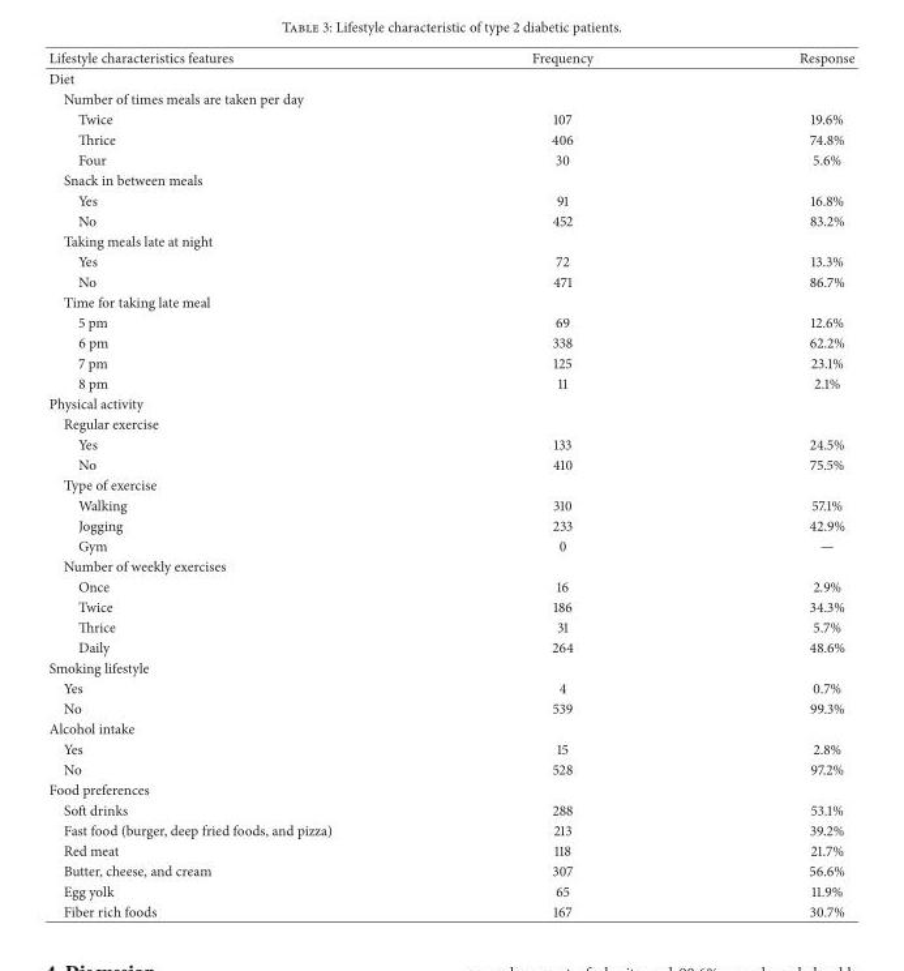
<table><thead><tr><td>Lifestyle characteristics features</td><td>Frequency</td><td>Response</td></tr></thead><tbody><tr><td colspan="3">Diet</td></tr><tr><td colspan="3">Number of times meals are taken per day</td></tr><tr><td>Twice</td><td>107</td><td>19.6%</td></tr><tr><td>Thrice</td><td>406</td><td>74.8%</td></tr><tr><td>Four</td><td>30</td><td>5.6%</td></tr><tr><td colspan="3">Snack in between meals</td></tr><tr><td>Yes</td><td>91</td><td>16.8%</td></tr><tr><td>No</td><td>452</td><td>83.2%</td></tr><tr><td colspan="3">Taking meals late at night</td></tr><tr><td>Yes</td><td>72</td><td>13.3%</td></tr><tr><td>No</td><td>471</td><td>86.7%</td></tr><tr><td colspan="3">Time for taking late meal</td></tr><tr><td>5 pm</td><td>69</td><td>12.6%</td></tr><tr><td>6 pm</td><td>338</td><td>62.2%</td></tr><tr><td>7 pm</td><td>125</td><td>23.1%</td></tr><tr><td>8 pm</td><td>11</td><td>2.1%</td></tr><tr><td colspan="3">Physical activity</td></tr><tr><td colspan="3">Regular exercise</td></tr><tr><td>Yes</td><td>133</td><td>24.5%</td></tr><tr><td>No</td><td>410</td><td>75.5%</td></tr><tr><td colspan="3">Type of exercise</td></tr><tr><td>Walking</td><td>310</td><td>57.1%</td></tr><tr><td>Jogging</td><td>233</td><td>42.9%</td></tr><tr><td>Gym</td><td>0</td><td>—</td></tr><tr><td colspan="3">Number of weekly exercises</td></tr><tr><td>Once</td><td>16</td><td>2.9%</td></tr><tr><td>Twice</td><td>186</td><td>34.3%</td></tr><tr><td>Thrice</td><td>31</td><td>5.7%</td></tr><tr><td>Daily</td><td>264</td><td>48.6%</td></tr><tr><td colspan="3">Smoking lifestyle</td></tr><tr><td>Yes</td><td>4</td><td>0.7%</td></tr><tr><td>No</td><td>539</td><td>99.3%</td></tr><tr><td colspan="3">Alcohol intake</td></tr><tr><td>Yes</td><td>15</td><td>2.8%</td></tr><tr><td>No</td><td>528</td><td>97.2%</td></tr><tr><td colspan="3">Food preferences</td></tr><tr><td>Soft drinks</td><td>288</td><td>53.1%</td></tr><tr><td>Fast food (burger, deep fried foods, and pizza)</td><td>213</td><td>39.2%</td></tr><tr><td>Red meat</td><td>118</td><td>21.7%</td></tr><tr><td>Butter, cheese, and cream</td><td>307</td><td>56.6%</td></tr><tr><td>Egg yolk</td><td>65</td><td>11.9%</td></tr><tr><td>Fiber rich foods</td><td>167</td><td>30.7%</td></tr></tbody></table>